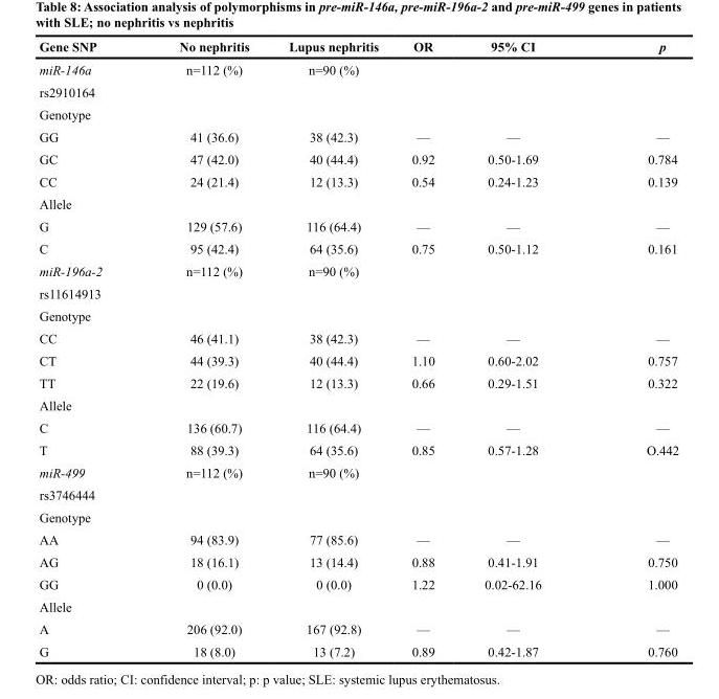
<table><thead><tr><td>Gene SNP</td><td>No nephritis</td><td>Lupus nephritis</td><td>OR</td><td>95% CI</td><td>p</td></tr></thead><tbody><tr><td>miR-146a</td><td>n=112 (%)</td><td>n=90 (%)</td><td></td><td></td><td></td></tr><tr><td colspan="6">rs2910164</td></tr><tr><td colspan="6">Genotype</td></tr><tr><td>GG</td><td>41 (36.6)</td><td>38 (42.3)</td><td>—</td><td>—</td><td>—</td></tr><tr><td>GC</td><td>47 (42.0)</td><td>40 (44.4)</td><td>0.92</td><td>0.50-1.69</td><td>0.784</td></tr><tr><td>CC</td><td>24 (21.4)</td><td>12 (13.3)</td><td>0.54</td><td>0.24-1.23</td><td>0.139</td></tr><tr><td colspan="6">Allele</td></tr><tr><td>G</td><td>129 (57.6)</td><td>116 (64.4)</td><td>—</td><td>—</td><td>—</td></tr><tr><td>C</td><td>95 (42.4)</td><td>64 (35.6)</td><td>0.75</td><td>0.50-1.12</td><td>0.161</td></tr><tr><td>miR-196a-2</td><td>n=112 (%)</td><td>n=90 (%)</td><td></td><td></td><td></td></tr><tr><td colspan="6">rs11614913</td></tr><tr><td colspan="6">Genotype</td></tr><tr><td>CC</td><td>46 (41.1)</td><td>38 (42.3)</td><td>—</td><td>—</td><td>—</td></tr><tr><td>CT</td><td>44 (39.3)</td><td>40 (44.4)</td><td>1.10</td><td>0.60-2.02</td><td>0.757</td></tr><tr><td>TT</td><td>22 (19.6)</td><td>12 (13.3)</td><td>0.66</td><td>0.29-1.51</td><td>0.322</td></tr><tr><td colspan="6">Allele</td></tr><tr><td>C</td><td>136 (60.7)</td><td>116 (64.4)</td><td>—</td><td>—</td><td>—</td></tr><tr><td>T</td><td>88 (39.3)</td><td>64 (35.6)</td><td>0.85</td><td>0.57-1.28</td><td>O.442</td></tr><tr><td>miR-499</td><td>n=112 (%)</td><td>n=90 (%)</td><td></td><td></td><td></td></tr><tr><td colspan="6">rs3746444</td></tr><tr><td colspan="6">Genotype</td></tr><tr><td>AA</td><td>94 (83.9)</td><td>77 (85.6)</td><td>—</td><td>—</td><td>—</td></tr><tr><td>AG</td><td>18 (16.1)</td><td>13 (14.4)</td><td>0.88</td><td>0.41-1.91</td><td>0.750</td></tr><tr><td>GG</td><td>0 (0.0)</td><td>0 (0.0)</td><td>1.22</td><td>0.02-62.16</td><td>1.000</td></tr><tr><td colspan="6">Allele</td></tr><tr><td>A</td><td>206 (92.0)</td><td>167 (92.8)</td><td>—</td><td>—</td><td>—</td></tr><tr><td>G</td><td>18 (8.0)</td><td>13 (7.2)</td><td>0.89</td><td>0.42-1.87</td><td>0.760</td></tr></tbody></table>